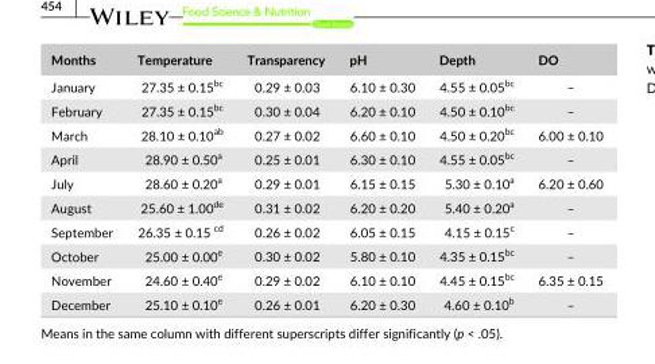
<table><thead><tr><td>Months</td><td>Temperature</td><td>Transparency</td><td>pH</td><td>Depth</td><td>DO</td></tr></thead><tbody><tr><td>January</td><td>27.35 ± 0.15<sup>bc</sup></td><td>0.29 ± 0.03</td><td>6.10 ± 0.30</td><td>4.55 ± 0.05<sup>bc</sup></td><td>–</td></tr><tr><td>February</td><td>27.35 ± 0.15<sup>bc</sup></td><td>0.30 ± 0.04</td><td>6.20 ± 0.10</td><td>4.50 ± 0.10<sup>bc</sup></td><td>–</td></tr><tr><td>March</td><td>28.10 ± 0.10<sup>ab</sup></td><td>0.27 ± 0.02</td><td>6.60 ± 0.10</td><td>4.50 ± 0.20<sup>bc</sup></td><td>6.00 ± 0.10</td></tr><tr><td>April</td><td>28.90 ± 0.50<sup>a</sup></td><td>0.25 ± 0.01</td><td>6.30 ± 0.10</td><td>4.55 ± 0.05<sup>bc</sup></td><td>–</td></tr><tr><td>July</td><td>28.60 ± 0.20<sup>a</sup></td><td>0.29 ± 0.01</td><td>6.15 ± 0.15</td><td>5.30 ± 0.10<sup>a</sup></td><td>6.20 ± 0.60</td></tr><tr><td>August</td><td>25.60 ± 1.00<sup>de</sup></td><td>0.31 ± 0.02</td><td>6.20 ± 0.20</td><td>5.40 ± 0.20<sup>a</sup></td><td>–</td></tr><tr><td>September</td><td>26.35 ± 0.15 <sup>cd</sup></td><td>0.26 ± 0.02</td><td>6.05 ± 0.15</td><td>4.15 ± 0.15<sup>c</sup></td><td>–</td></tr><tr><td>October</td><td>25.00 ± 0.00<sup>e</sup></td><td>0.30 ± 0.02</td><td>5.80 ± 0.10</td><td>4.35 ± 0.15<sup>bc</sup></td><td>–</td></tr><tr><td>November</td><td>24.60 ± 0.40<sup>e</sup></td><td>0.29 ± 0.02</td><td>6.10 ± 0.10</td><td>4.45 ± 0.15<sup>bc</sup></td><td>6.35 ± 0.15</td></tr><tr><td>December</td><td>25.10 ± 0.10<sup>e</sup></td><td>0.26 ± 0.01</td><td>6.20 ± 0.30</td><td>4.60 ± 0.10<sup>b</sup></td><td>–</td></tr></tbody></table>